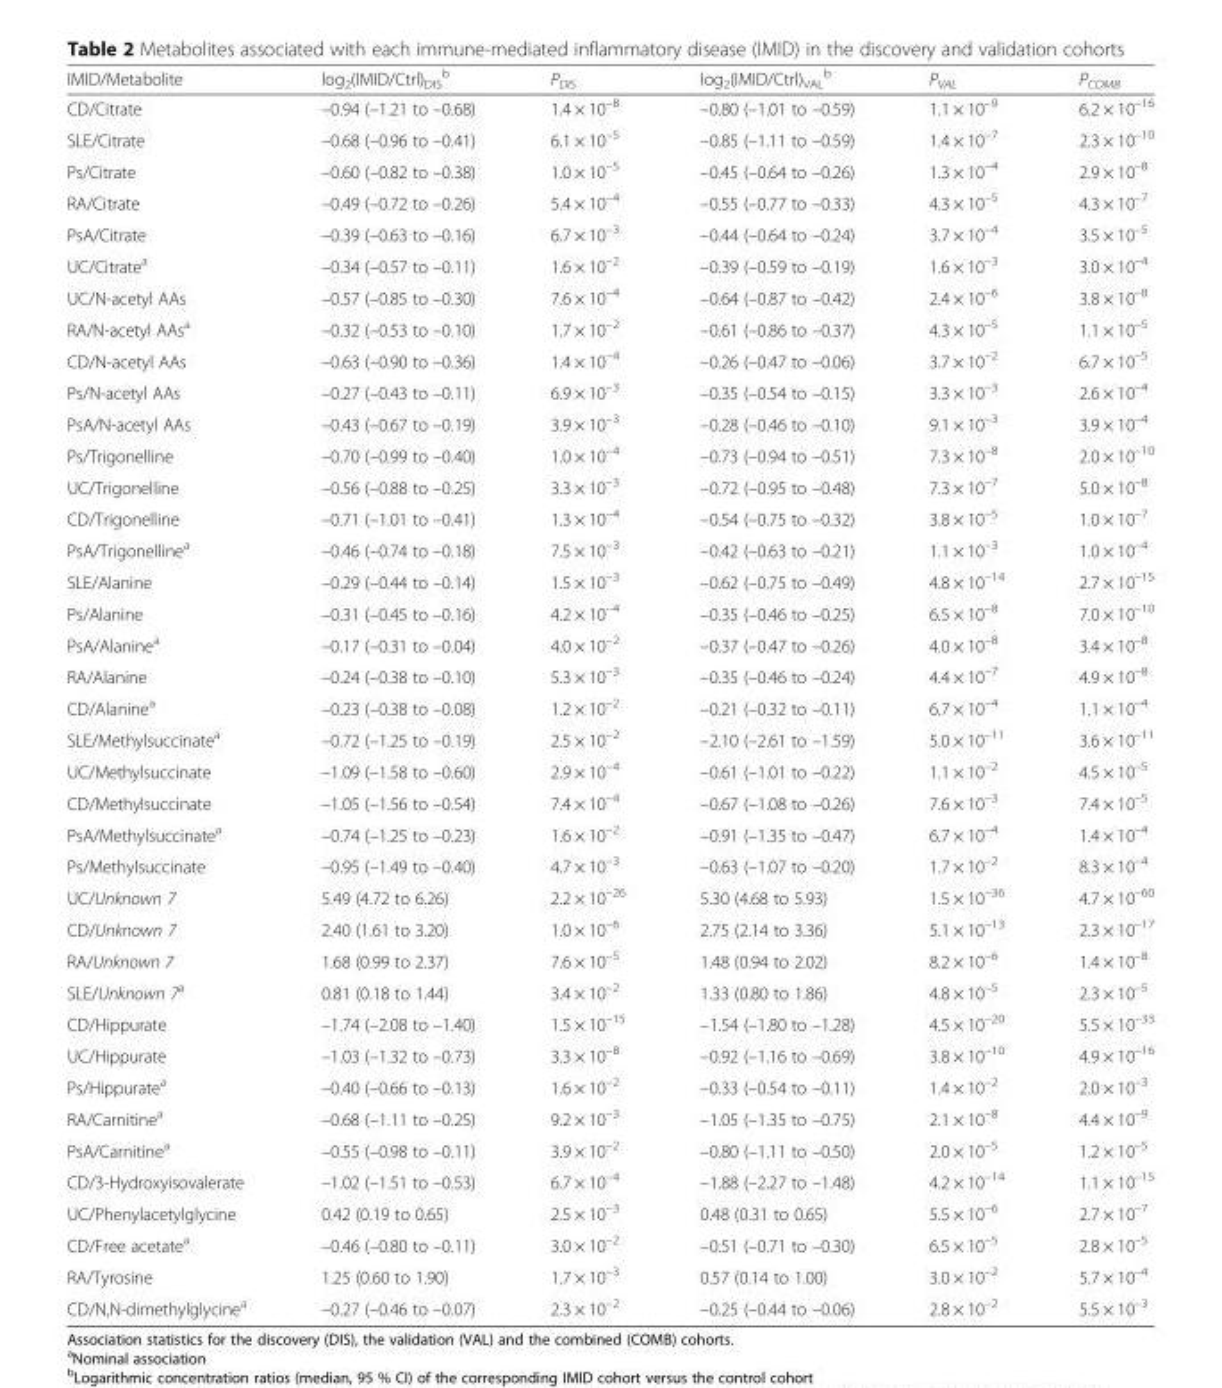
<table><thead><tr><td>IMID/Metabolite</td><td>log<sub>2</sub>(IMID/Ctrl)<sub>DIS</sub> <sup>b</sup></td><td>P<sub>DIS</sub></td><td>log<sub>2</sub>(IMID/Ctrl)<sub>VAL</sub> <sup>b</sup></td><td>P<sub>VAL</sub></td><td>P<sub>COMB</sub></td></tr></thead><tbody><tr><td>CD/Citrate</td><td>–0.94 (–1.21 to –0.68)</td><td>1.4 × 10<sup>–8</sup></td><td>–0.80 (–1.01 to –0.59)</td><td>1.1 × 10<sup>–9</sup></td><td>6.2 × 10<sup>–16</sup></td></tr><tr><td>SLE/Citrate</td><td>–0.68 (–0.96 to –0.41)</td><td>6.1 × 10<sup>–5</sup></td><td>–0.85 (–1.11 to –0.59)</td><td>1.4 × 10<sup>–7</sup></td><td>2.3 × 10<sup>–10</sup></td></tr><tr><td>Ps/Citrate</td><td>–0.60 (–0.82 to –0.38)</td><td>1.0 × 10<sup>–5</sup></td><td>–0.45 (–0.64 to –0.26)</td><td>1.3 × 10<sup>–4</sup></td><td>2.9 × 10<sup>–8</sup></td></tr><tr><td>RA/Citrate</td><td>–0.49 (–0.72 to –0.26)</td><td>5.4 × 10<sup>–4</sup></td><td>–0.55 (–0.77 to –0.33)</td><td>4.3 × 10<sup>–5</sup></td><td>4.3 × 10<sup>–7</sup></td></tr><tr><td>PsA/Citrate</td><td>–0.39 (–0.63 to –0.16)</td><td>6.7 × 10<sup>–3</sup></td><td>–0.44 (–0.64 to –0.24)</td><td>3.7 × 10<sup>–4</sup></td><td>3.5 × 10<sup>–5</sup></td></tr><tr><td>UC/Citrate<sup>a</sup></td><td>–0.34 (–0.57 to –0.11)</td><td>1.6 × 10<sup>–2</sup></td><td>–0.39 (–0.59 to –0.19)</td><td>1.6 × 10<sup>–3</sup></td><td>3.0 × 10<sup>–4</sup></td></tr><tr><td>UC/N-acetyl AAs</td><td>–0.57 (–0.85 to –0.30)</td><td>7.6 × 10<sup>–4</sup></td><td>–0.64 (–0.87 to –0.42)</td><td>2.4 × 10<sup>–6</sup></td><td>3.8 × 10<sup>–8</sup></td></tr><tr><td>RA/N-acetyl AAs<sup>a</sup></td><td>–0.32 (–0.53 to –0.10)</td><td>1.7 × 10<sup>–2</sup></td><td>–0.61 (–0.86 to –0.37)</td><td>4.3 × 10<sup>–5</sup></td><td>1.1 × 10<sup>–5</sup></td></tr><tr><td>CD/N-acetyl AAs</td><td>–0.63 (–0.90 to –0.36)</td><td>1.4 × 10<sup>–4</sup></td><td>–0.26 (–0.47 to –0.06)</td><td>3.7 × 10<sup>–2</sup></td><td>6.7 × 10<sup>–5</sup></td></tr><tr><td>Ps/N-acetyl AAs</td><td>–0.27 (–0.43 to –0.11)</td><td>6.9 × 10<sup>–3</sup></td><td>–0.35 (–0.54 to –0.15)</td><td>3.3 × 10<sup>–3</sup></td><td>2.6 × 10<sup>–4</sup></td></tr><tr><td>PsA/N-acetyl AAs</td><td>–0.43 (–0.67 to –0.19)</td><td>3.9 × 10<sup>–3</sup></td><td>–0.28 (–0.46 to –0.10)</td><td>9.1 × 10<sup>–3</sup></td><td>3.9 × 10<sup>–4</sup></td></tr><tr><td>Ps/Trigonelline</td><td>–0.70 (–0.99 to –0.40)</td><td>1.0 × 10<sup>–4</sup></td><td>–0.73 (–0.94 to –0.51)</td><td>7.3 × 10<sup>–8</sup></td><td>2.0 × 10<sup>–10</sup></td></tr><tr><td>UC/Trigonelline</td><td>–0.56 (–0.88 to –0.25)</td><td>3.3 × 10<sup>–3</sup></td><td>–0.72 (–0.95 to –0.48)</td><td>7.3 × 10<sup>–7</sup></td><td>5.0 × 10<sup>–8</sup></td></tr><tr><td>CD/Trigonelline</td><td>–0.71 (–1.01 to –0.41)</td><td>1.3 × 10<sup>–4</sup></td><td>–0.54 (–0.75 to –0.32)</td><td>3.8 × 10<sup>–5</sup></td><td>1.0 × 10<sup>–7</sup></td></tr><tr><td>PsA/Trigonelline<sup>a</sup></td><td>–0.46 (–0.74 to –0.18)</td><td>7.5 × 10<sup>–3</sup></td><td>–0.42 (–0.63 to –0.21)</td><td>1.1 × 10<sup>–3</sup></td><td>1.0 × 10<sup>–4</sup></td></tr><tr><td>SLE/Alanine</td><td>–0.29 (–0.44 to –0.14)</td><td>1.5 × 10<sup>–3</sup></td><td>–0.62 (–0.75 to –0.49)</td><td>4.8 × 10<sup>–14</sup></td><td>2.7 × 10<sup>–15</sup></td></tr><tr><td>Ps/Alanine</td><td>–0.31 (–0.45 to –0.16)</td><td>4.2 × 10<sup>–4</sup></td><td>–0.35 (–0.46 to –0.25)</td><td>6.5 × 10<sup>–8</sup></td><td>7.0 × 10<sup>–10</sup></td></tr><tr><td>PsA/Alanine<sup>a</sup></td><td>–0.17 (–0.31 to –0.04)</td><td>4.0 × 10<sup>–2</sup></td><td>–0.37 (–0.47 to –0.26)</td><td>4.0 × 10<sup>–8</sup></td><td>3.4 × 10<sup>–8</sup></td></tr><tr><td>RA/Alanine</td><td>–0.24 (–0.38 to –0.10)</td><td>5.3 × 10<sup>–3</sup></td><td>–0.35 (–0.46 to –0.24)</td><td>4.4 × 10<sup>–7</sup></td><td>4.9 × 10<sup>–8</sup></td></tr><tr><td>CD/Alanine<sup>a</sup></td><td>–0.23 (–0.38 to –0.08)</td><td>1.2 × 10<sup>–2</sup></td><td>–0.21 (–0.32 to –0.11)</td><td>6.7 × 10<sup>–4</sup></td><td>1.1 × 10<sup>–4</sup></td></tr><tr><td>SLE/Methylsuccinate<sup>a</sup></td><td>–0.72 (–1.25 to –0.19)</td><td>2.5 × 10<sup>–2</sup></td><td>–2.10 (–2.61 to –1.59)</td><td>5.0 × 10<sup>–11</sup></td><td>3.6 × 10<sup>–11</sup></td></tr><tr><td>UC/Methylsuccinate</td><td>–1.09 (–1.58 to –0.60)</td><td>2.9 × 10<sup>–4</sup></td><td>–0.61 (–1.01 to –0.22)</td><td>1.1 × 10<sup>–2</sup></td><td>4.5 × 10<sup>–5</sup></td></tr><tr><td>CD/Methylsuccinate</td><td>–1.05 (–1.56 to –0.54)</td><td>7.4 × 10<sup>–4</sup></td><td>–0.67 (–1.08 to –0.26)</td><td>7.6 × 10<sup>–3</sup></td><td>7.4 × 10<sup>–5</sup></td></tr><tr><td>PsA/Methylsuccinate<sup>a</sup></td><td>–0.74 (–1.25 to –0.23)</td><td>1.6 × 10<sup>–2</sup></td><td>–0.91 (–1.35 to –0.47)</td><td>6.7 × 10<sup>–4</sup></td><td>1.4 × 10<sup>–4</sup></td></tr><tr><td>Ps/Methylsuccinate</td><td>–0.95 (–1.49 to –0.40)</td><td>4.7 × 10<sup>–3</sup></td><td>–0.63 (–1.07 to –0.20)</td><td>1.7 × 10<sup>–2</sup></td><td>8.3 × 10<sup>–4</sup></td></tr><tr><td>UC/Unknown 7</td><td>5.49 (4.72 to 6.26)</td><td>2.2 × 10<sup>–26</sup></td><td>5.30 (4.68 to 5.93)</td><td>1.5 × 10<sup>–36</sup></td><td>4.7 × 10<sup>–60</sup></td></tr><tr><td>CD/Unknown 7</td><td>2.40 (1.61 to 3.20)</td><td>1.0 × 10<sup>–6</sup></td><td>2.75 (2.14 to 3.36)</td><td>5.1 × 10<sup>–13</sup></td><td>2.3 × 10<sup>–17</sup></td></tr><tr><td>RA/Unknown 7</td><td>1.68 (0.99 to 2.37)</td><td>7.6 × 10<sup>–5</sup></td><td>1.48 (0.94 to 2.02)</td><td>8.2 × 10<sup>–6</sup></td><td>1.4 × 10<sup>–8</sup></td></tr><tr><td>SLE/Unknown 7<sup>a</sup></td><td>0.81 (0.18 to 1.44)</td><td>3.4 × 10<sup>–2</sup></td><td>1.33 (0.80 to 1.86)</td><td>4.8 × 10<sup>–5</sup></td><td>2.3 × 10<sup>–5</sup></td></tr><tr><td>CD/Hippurate</td><td>–1.74 (–2.08 to –1.40)</td><td>1.5 × 10<sup>–15</sup></td><td>–1.54 (–1.80 to –1.28)</td><td>4.5 × 10<sup>–20</sup></td><td>5.5 × 10<sup>–33</sup></td></tr><tr><td>UC/Hippurate</td><td>–1.03 (–1.32 to –0.73)</td><td>3.3 × 10<sup>–8</sup></td><td>–0.92 (–1.16 to –0.69)</td><td>3.8 × 10<sup>–10</sup></td><td>4.9 × 10<sup>–16</sup></td></tr><tr><td>Ps/Hippurate<sup>a</sup></td><td>–0.40 (–0.66 to –0.13)</td><td>1.6 × 10<sup>–2</sup></td><td>–0.33 (–0.54 to –0.11)</td><td>1.4 × 10<sup>–2</sup></td><td>2.0 × 10<sup>–3</sup></td></tr><tr><td>RA/Carnitine<sup>a</sup></td><td>–0.68 (–1.11 to –0.25)</td><td>9.2 × 10<sup>–3</sup></td><td>–1.05 (–1.35 to –0.75)</td><td>2.1 × 10<sup>–8</sup></td><td>4.4 × 10<sup>–9</sup></td></tr><tr><td>PsA/Carnitine<sup>a</sup></td><td>–0.55 (–0.98 to –0.11)</td><td>3.9 × 10<sup>–2</sup></td><td>–0.80 (–1.11 to –0.50)</td><td>2.0 × 10<sup>–5</sup></td><td>1.2 × 10<sup>–5</sup></td></tr><tr><td>CD/3-Hydroxyisovalerate</td><td>–1.02 (–1.51 to –0.53)</td><td>6.7 × 10<sup>–4</sup></td><td>–1.88 (–2.27 to –1.48)</td><td>4.2 × 10<sup>–14</sup></td><td>1.1 × 10<sup>–15</sup></td></tr><tr><td>UC/Phenylacetylglycine</td><td>0.42 (0.19 to 0.65)</td><td>2.5 × 10<sup>–3</sup></td><td>0.48 (0.31 to 0.65)</td><td>5.5 × 10<sup>–6</sup></td><td>2.7 × 10<sup>–7</sup></td></tr><tr><td>CD/Free acetate<sup>a</sup></td><td>–0.46 (–0.80 to –0.11)</td><td>3.0 × 10<sup>–2</sup></td><td>–0.51 (–0.71 to –0.30)</td><td>6.5 × 10<sup>–5</sup></td><td>2.8 × 10<sup>–5</sup></td></tr><tr><td>RA/Tyrosine</td><td>1.25 (0.60 to 1.90)</td><td>1.7 × 10<sup>–3</sup></td><td>0.57 (0.14 to 1.00)</td><td>3.0 × 10<sup>–2</sup></td><td>5.7 × 10<sup>–4</sup></td></tr><tr><td>CD/N,N-dimethylglycine<sup>a</sup></td><td>–0.27 (–0.46 to –0.07)</td><td>2.3 × 10<sup>–2</sup></td><td>–0.25 (–0.44 to –0.06)</td><td>2.8 × 10<sup>–2</sup></td><td>5.5 × 10<sup>–3</sup></td></tr></tbody></table>